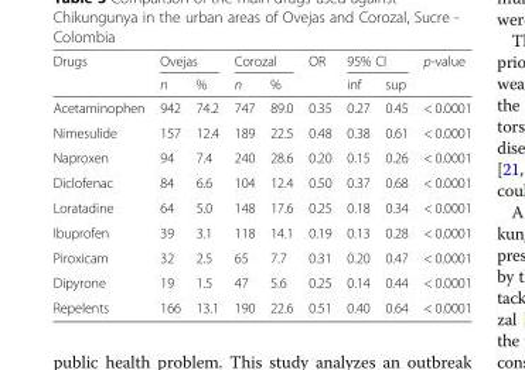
<table><thead><tr><td rowspan="2">Drugs</td><td colspan="2">Ovejas</td><td colspan="2">Corozal</td><td rowspan="2">OR</td><td colspan="2">95% CI</td><td rowspan="2">p-value</td></tr><tr><td>n</td><td>%</td><td>n</td><td>%</td><td>inf</td><td>sup</td></tr></thead><tbody><tr><td>Acetaminophen</td><td>942</td><td>74.2</td><td>747</td><td>89.0</td><td>0.35</td><td>0.27</td><td>0.45</td><td>&lt; 0.0001</td></tr><tr><td>Nimesulide</td><td>157</td><td>12.4</td><td>189</td><td>22.5</td><td>0.48</td><td>0.38</td><td>0.61</td><td>&lt; 0.0001</td></tr><tr><td>Naproxen</td><td>94</td><td>7.4</td><td>240</td><td>28.6</td><td>0.20</td><td>0.15</td><td>0.26</td><td>&lt; 0.0001</td></tr><tr><td>Diclofenac</td><td>84</td><td>6.6</td><td>104</td><td>12.4</td><td>0.50</td><td>0.37</td><td>0.68</td><td>&lt; 0.0001</td></tr><tr><td>Loratadine</td><td>64</td><td>5.0</td><td>148</td><td>17.6</td><td>0.25</td><td>0.18</td><td>0.34</td><td>&lt; 0.0001</td></tr><tr><td>Ibuprofen</td><td>39</td><td>3.1</td><td>118</td><td>14.1</td><td>0.19</td><td>0.13</td><td>0.28</td><td>&lt; 0.0001</td></tr><tr><td>Piroxicam</td><td>32</td><td>2.5</td><td>65</td><td>7.7</td><td>0.31</td><td>0.20</td><td>0.47</td><td>&lt; 0.0001</td></tr><tr><td>Dipyrone</td><td>19</td><td>1.5</td><td>47</td><td>5.6</td><td>0.25</td><td>0.14</td><td>0.44</td><td>&lt; 0.0001</td></tr><tr><td>Repelents</td><td>166</td><td>13.1</td><td>190</td><td>22.6</td><td>0.51</td><td>0.40</td><td>0.64</td><td>&lt; 0.0001</td></tr></tbody></table>